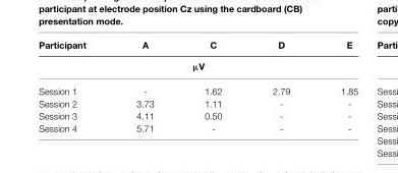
<table><thead><tr><td>Participant</td><td>A</td><td>C</td><td>D</td><td>E</td></tr><tr><td colspan="5">µV</td></tr></thead><tbody><tr><td>Session 1</td><td>-</td><td>1.62</td><td>2.79</td><td>1.85</td></tr><tr><td>Session 2</td><td>3.73</td><td>1.11</td><td>-</td><td>-</td></tr><tr><td>Session 3</td><td>4.11</td><td>0.50</td><td>-</td><td>-</td></tr><tr><td>Session 4</td><td>5.71</td><td>-</td><td>-</td><td>-</td></tr></tbody></table>